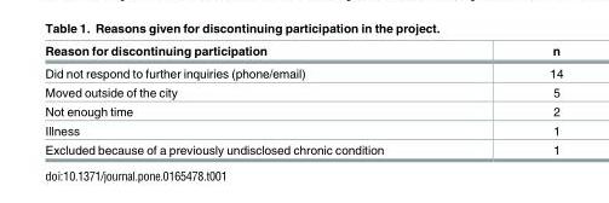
<table><thead><tr><td>Reason for discontinuing participation</td><td>n</td></tr></thead><tbody><tr><td>Did not respond to further inquiries (phone/email)</td><td>14</td></tr><tr><td>Moved outside of the city</td><td>5</td></tr><tr><td>Not enough time</td><td>2</td></tr><tr><td>Illness</td><td>1</td></tr><tr><td>Excluded because of a previously undisclosed chronic condition</td><td>1</td></tr></tbody></table>